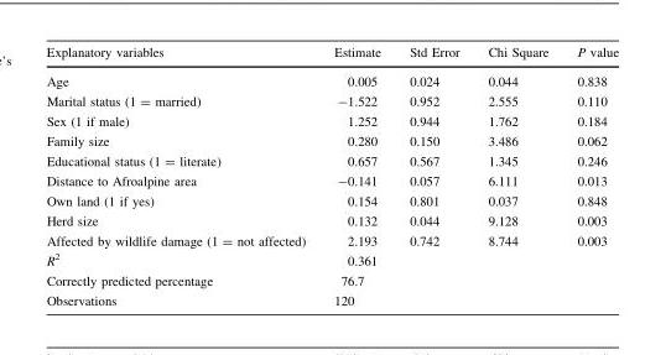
<table><thead><tr><td>Explanatory variables</td><td>Estimate</td><td>Std Error</td><td>Chi Square</td><td>P value</td></tr></thead><tbody><tr><td>Age</td><td>0.005</td><td>0.024</td><td>0.044</td><td>0.838</td></tr><tr><td>Marital status (1 = married)</td><td>-1.522</td><td>0.952</td><td>2.555</td><td>0.110</td></tr><tr><td>Sex (1 if male)</td><td>1.252</td><td>0.944</td><td>1.762</td><td>0.184</td></tr><tr><td>Family size</td><td>0.280</td><td>0.150</td><td>3.486</td><td>0.062</td></tr><tr><td>Educational status (1 = literate)</td><td>0.657</td><td>0.567</td><td>1.345</td><td>0.246</td></tr><tr><td>Distance to Afroalpine area</td><td>-0.141</td><td>0.057</td><td>6.111</td><td>0.013</td></tr><tr><td>Own land (1 if yes)</td><td>0.154</td><td>0.801</td><td>0.037</td><td>0.848</td></tr><tr><td>Herd size</td><td>0.132</td><td>0.044</td><td>9.128</td><td>0.003</td></tr><tr><td>Affected by wildlife damage (1 = not affected)</td><td>2.193</td><td>0.742</td><td>8.744</td><td>0.003</td></tr><tr><td>R<sup>2</sup></td><td>0.361</td><td></td><td></td><td></td></tr><tr><td>Correctly predicted percentage</td><td>76.7</td><td></td><td></td><td></td></tr><tr><td>Observations</td><td>120</td><td></td><td></td><td></td></tr></tbody></table>